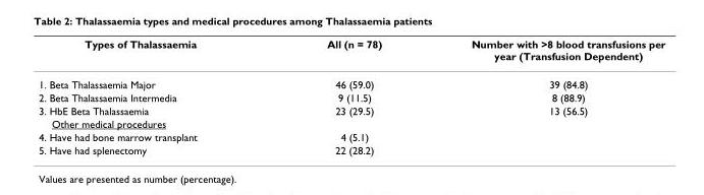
<table><thead><tr><td>Types of Thalassaemia</td><td>All (n = 78)</td><td>Number with &gt;8 blood transfusions per year (Transfusion Dependent)</td></tr></thead><tbody><tr><td>1. Beta Thalassaemia Major</td><td>46 (59.0)</td><td>39 (84.8)</td></tr><tr><td>2. Beta Thalassaemia Intermedia</td><td>9 (11.5)</td><td>8 (88.9)</td></tr><tr><td>3. HbE Beta Thalassaemia</td><td>23 (29.5)</td><td>13 (56.5)</td></tr><tr><td colspan="3">Other medical procedures</td></tr><tr><td>4. Have had bone marrow transplant</td><td>4 (5.1)</td><td></td></tr><tr><td>5. Have had splenectomy</td><td>22 (28.2)</td><td></td></tr></tbody></table>